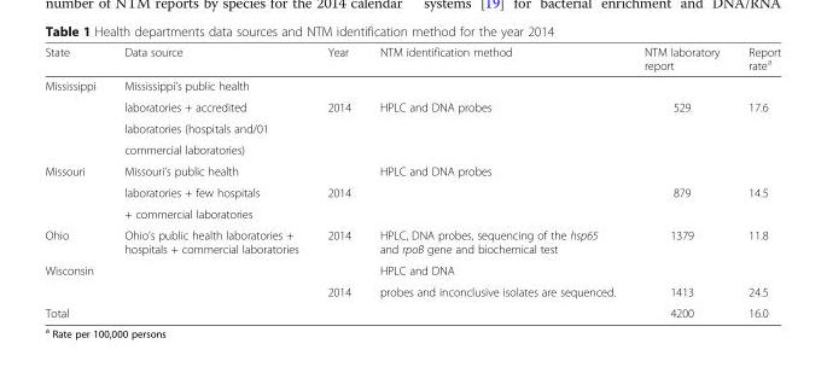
<table><thead><tr><td>State</td><td>Data source</td><td>Year</td><td>NTM identification method</td><td>NTM laboratory report</td><td>Report rate<sup>a</sup></td></tr></thead><tbody><tr><td rowspan="4">Mississippi</td><td>Mississippi’s public health</td><td></td><td></td><td></td><td></td></tr><tr><td>laboratories + accredited</td><td rowspan="2">2014</td><td>HPLC and DNA probes</td><td rowspan="2">529</td><td rowspan="2">17.6</td></tr><tr><td>laboratories (hospitals and/01</td><td></td></tr><tr><td>commercial laboratories)</td><td></td><td></td><td></td><td></td></tr><tr><td rowspan="3">Missouri</td><td>Missouri’s public health</td><td></td><td rowspan="3">HPLC and DNA probes</td><td></td><td></td></tr><tr><td>laboratories + few hospitals</td><td>2014</td><td>879</td><td>14.5</td></tr><tr><td>+ commercial laboratories</td><td></td><td></td><td></td></tr><tr><td>Ohio</td><td>Ohio’s public health laboratories + hospitals + commercial laboratories</td><td>2014</td><td>HPLC, DNA probes, sequencing of the hsp65 and rpoB gene and biochemical test</td><td>1379</td><td>11.8</td></tr><tr><td rowspan="2">Wisconsin</td><td></td><td></td><td>HPLC and DNA</td><td></td><td></td></tr><tr><td></td><td>2014</td><td>probes and inconclusive isolates are sequenced.</td><td>1413</td><td>24.5</td></tr><tr><td>Total</td><td></td><td></td><td></td><td>4200</td><td>16.0</td></tr></tbody></table>